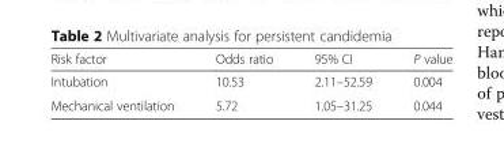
<table><thead><tr><td>Risk factor</td><td>Odds ratio</td><td>95% CI</td><td>P value</td></tr></thead><tbody><tr><td>Intubation</td><td>10.53</td><td>2.11–52.59</td><td>0.004</td></tr><tr><td>Mechanical ventilation</td><td>5.72</td><td>1.05–31.25</td><td>0.044</td></tr></tbody></table>